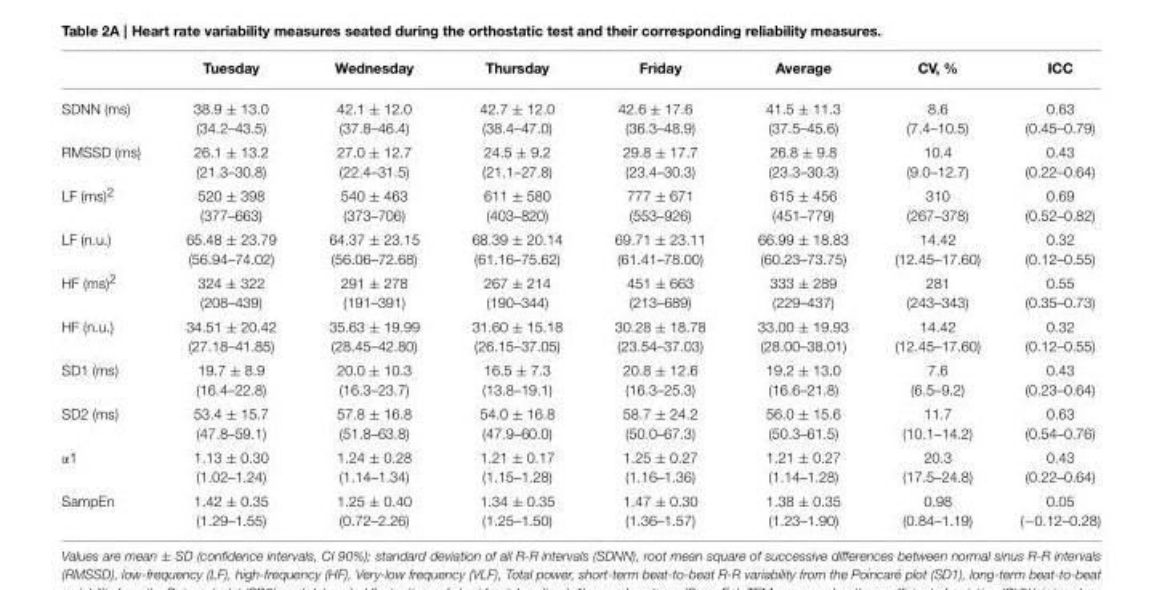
<table><thead><tr><td></td><td>Tuesday</td><td>Wednesday</td><td>Thursday</td><td>Friday</td><td>Average</td><td>CV, %</td><td>ICC</td></tr></thead><tbody><tr><td>SDNN (ms)</td><td>38.9 ± 13.0 (34.2–43.5)</td><td>42.1 ± 12.0 (37.8–46.4)</td><td>42.7 ± 12.0 (38.4–47.0)</td><td>42.6 ± 17.6 (36.3–48.9)</td><td>41.5 ± 11.3 (37.5–45.6)</td><td>8.6 (7.4–10.5)</td><td>0.63 (0.45–0.79)</td></tr><tr><td>RMSSD (ms)</td><td>26.1 ± 13.2 (21.3–30.8)</td><td>27.0 ± 12.7 (22.4–31.5)</td><td>24.5 ± 9.2 (21.1–27.8)</td><td>29.8 ± 17.7 (23.4–30.3)</td><td>26.8 ± 9.8 (23.3–30.3)</td><td>10.4 (9.0–12.7)</td><td>0.43 (0.22–0.64)</td></tr><tr><td>LF (ms)<sup>2</sup></td><td>520 ± 398 (377–663)</td><td>540 ± 463 (373–706)</td><td>611 ± 580 (403–820)</td><td>777 ± 671 (553–926)</td><td>615 ± 456 (451–779)</td><td>310 (267–378)</td><td>0.69 (0.52–0.82)</td></tr><tr><td>LF (n.u.)</td><td>65.48 ± 23.79 (56.94–74.02)</td><td>64.37 ± 23.15 (56.06–72.68)</td><td>68.39 ± 20.14 (61.16–75.62)</td><td>69.71 ± 23.11 (61.41–78.00)</td><td>66.99 ± 18.83 (60.23–73.75)</td><td>14.42 (12.45–17.60)</td><td>0.32 (0.12–0.55)</td></tr><tr><td>HF (ms)<sup>2</sup></td><td>324 ± 322 (208–439)</td><td>291 ± 278 (191–391)</td><td>267 ± 214 (190–344)</td><td>451 ± 663 (213–689)</td><td>333 ± 289 (229–437)</td><td>281 (243–343)</td><td>0.55 (0.35–0.73)</td></tr><tr><td>HF (n.u.)</td><td>34.51 ± 20.42 (27.18–41.85)</td><td>35.63 ± 19.99 (28.45–42.80)</td><td>31.60 ± 15.18 (26.15–37.05)</td><td>30.28 ± 18.78 (23.54–37.03)</td><td>33.00 ± 19.93 (28.00–38.01)</td><td>14.42 (12.45–17.60)</td><td>0.32 (0.12–0.55)</td></tr><tr><td>SD1 (ms)</td><td>19.7 ± 8.9 (16.4–22.8)</td><td>20.0 ± 10.3 (16.3–23.7)</td><td>16.5 ± 7.3 (13.8–19.1)</td><td>20.8 ± 12.6 (16.3–25.3)</td><td>19.2 ± 13.0 (16.6–21.8)</td><td>7.6 (6.5–9.2)</td><td>0.43 (0.23–0.64)</td></tr><tr><td>SD2 (ms)</td><td>53.4 ± 15.7 (47.8–59.1)</td><td>57.8 ± 16.8 (51.8–63.8)</td><td>54.0 ± 16.8 (47.9–60.0)</td><td>58.7 ± 24.2 (50.0–67.3)</td><td>56.0 ± 15.6 (50.3–61.5)</td><td>11.7 (10.1–14.2)</td><td>0.63 (0.54–0.76)</td></tr><tr><td>α1</td><td>1.13 ± 0.30 (1.02–1.24)</td><td>1.24 ± 0.28 (1.14–1.34)</td><td>1.21 ± 0.17 (1.15–1.28)</td><td>1.25 ± 0.27 (1.16–1.36)</td><td>1.21 ± 0.27 (1.14–1.28)</td><td>20.3 (17.5–24.8)</td><td>0.43 (0.22–0.64)</td></tr><tr><td>SampEn</td><td>1.42 ± 0.35 (1.29–1.55)</td><td>1.25 ± 0.40 (0.72–2.26)</td><td>1.34 ± 0.35 (1.25–1.50)</td><td>1.47 ± 0.30 (1.36–1.57)</td><td>1.38 ± 0.35 (1.23–1.90)</td><td>0.98 (0.84–1.19)</td><td>0.05 (−0.12–0.28)</td></tr></tbody></table>